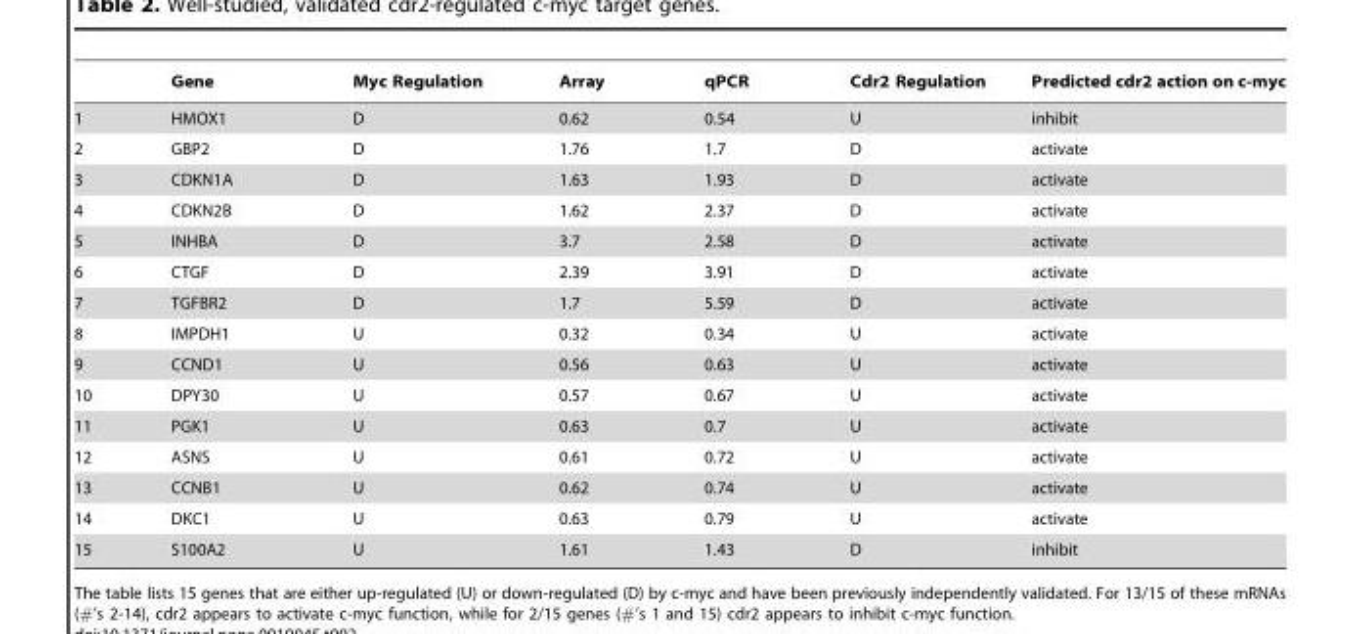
<table><thead><tr><td></td><td>Gene</td><td>Myc Regulation</td><td>Array</td><td>qPCR</td><td>Cdr2 Regulation</td><td>Predicted cdr2 action on c-myc</td></tr></thead><tbody><tr><td>1</td><td>HMOX1</td><td>D</td><td>0.62</td><td>0.54</td><td>U</td><td>inhibit</td></tr><tr><td>2</td><td>GBP2</td><td>D</td><td>1.76</td><td>1.7</td><td>D</td><td>activate</td></tr><tr><td>3</td><td>CDKN1A</td><td>D</td><td>1.63</td><td>1.93</td><td>D</td><td>activate</td></tr><tr><td>4</td><td>CDKN2B</td><td>D</td><td>1.62</td><td>2.37</td><td>D</td><td>activate</td></tr><tr><td>5</td><td>INHBA</td><td>D</td><td>3.7</td><td>2.58</td><td>D</td><td>activate</td></tr><tr><td>6</td><td>CTGF</td><td>D</td><td>2.39</td><td>3.91</td><td>D</td><td>activate</td></tr><tr><td>7</td><td>TGFBR2</td><td>D</td><td>1.7</td><td>5.59</td><td>D</td><td>activate</td></tr><tr><td>8</td><td>IMPDH1</td><td>U</td><td>0.32</td><td>0.34</td><td>U</td><td>activate</td></tr><tr><td>9</td><td>CCND1</td><td>U</td><td>0.56</td><td>0.63</td><td>U</td><td>activate</td></tr><tr><td>10</td><td>DPY30</td><td>U</td><td>0.57</td><td>0.67</td><td>U</td><td>activate</td></tr><tr><td>11</td><td>PGK1</td><td>U</td><td>0.63</td><td>0.7</td><td>U</td><td>activate</td></tr><tr><td>12</td><td>ASNS</td><td>U</td><td>0.61</td><td>0.72</td><td>U</td><td>activate</td></tr><tr><td>13</td><td>CCNB1</td><td>U</td><td>0.62</td><td>0.74</td><td>U</td><td>activate</td></tr><tr><td>14</td><td>DKC1</td><td>U</td><td>0.63</td><td>0.79</td><td>U</td><td>activate</td></tr><tr><td>15</td><td>S100A2</td><td>U</td><td>1.61</td><td>1.43</td><td>D</td><td>inhibit</td></tr></tbody></table>